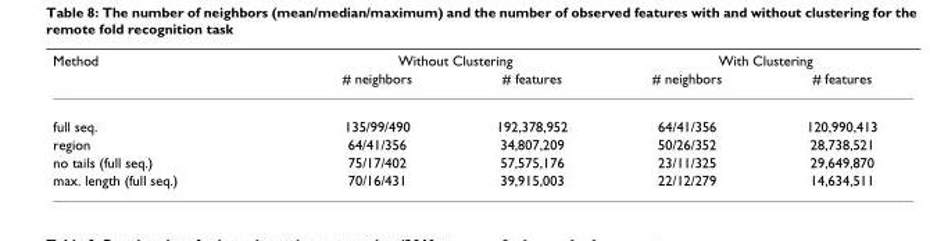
<table><thead><tr><td rowspan="2">Method</td><td colspan="2">Without Clustering</td><td colspan="2">With Clustering</td></tr><tr><td># neighbors</td><td># features</td><td># neighbors</td><td># features</td></tr></thead><tbody><tr><td>full seq.</td><td>135/99/490</td><td>192,378,952</td><td>64/41/356</td><td>120,990,413</td></tr><tr><td>region</td><td>64/41/356</td><td>34,807,209</td><td>50/26/352</td><td>28,738,521</td></tr><tr><td>no tails (full seq.)</td><td>75/17/402</td><td>57,575,176</td><td>23/11/325</td><td>29,649,870</td></tr><tr><td>max. length (full seq.)</td><td>70/16/431</td><td>39,915,003</td><td>22/12/279</td><td>14,634,511</td></tr></tbody></table>